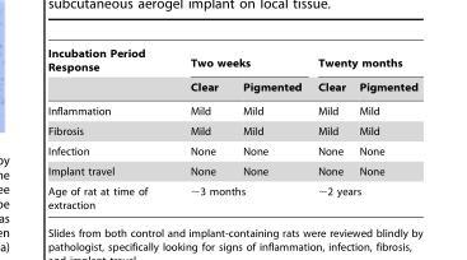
<table><thead><tr><td rowspan="2">Incubation Period Response</td><td colspan="2">Two weeks</td><td colspan="2">Twenty months</td></tr><tr><td>Clear</td><td>Pigmented</td><td>Clear</td><td>Pigmented</td></tr></thead><tbody><tr><td>Inflammation</td><td>Mild</td><td>Mild</td><td>Mild</td><td>Mild</td></tr><tr><td>Fibrosis</td><td>Mild</td><td>Mild</td><td>Mild</td><td>Mild</td></tr><tr><td>Infection</td><td>None</td><td>None</td><td>None</td><td>None</td></tr><tr><td>Implant travel</td><td>None</td><td>None</td><td>None</td><td>None</td></tr><tr><td>Age of rat at time of extraction</td><td colspan="2">∼3 months</td><td colspan="2">∼2 years</td></tr></tbody></table>